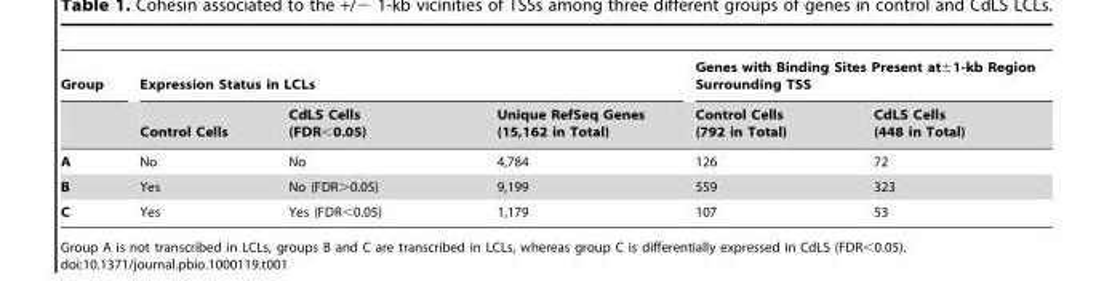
<table><thead><tr><td rowspan="2">Group</td><td colspan="3">Expression Status in LCLs</td><td colspan="2">Genes with Binding Sites Present at±1-kb Region Surrounding TSS</td></tr><tr><td>Control Cells</td><td>CdLS Cells (FDR&lt;0.05)</td><td>Unique RefSeq Genes (15,162 in Total)</td><td>Control Cells (792 in Total)</td><td>CdLS Cells (448 in Total)</td></tr></thead><tbody><tr><td>A</td><td>No</td><td>No</td><td>4,784</td><td>126</td><td>72</td></tr><tr><td>B</td><td>Yes</td><td>No (FDR&gt;0.05)</td><td>9,199</td><td>559</td><td>323</td></tr><tr><td>C</td><td>Yes</td><td>Yes (FDR&lt;0.05)</td><td>1,179</td><td>107</td><td>53</td></tr></tbody></table>